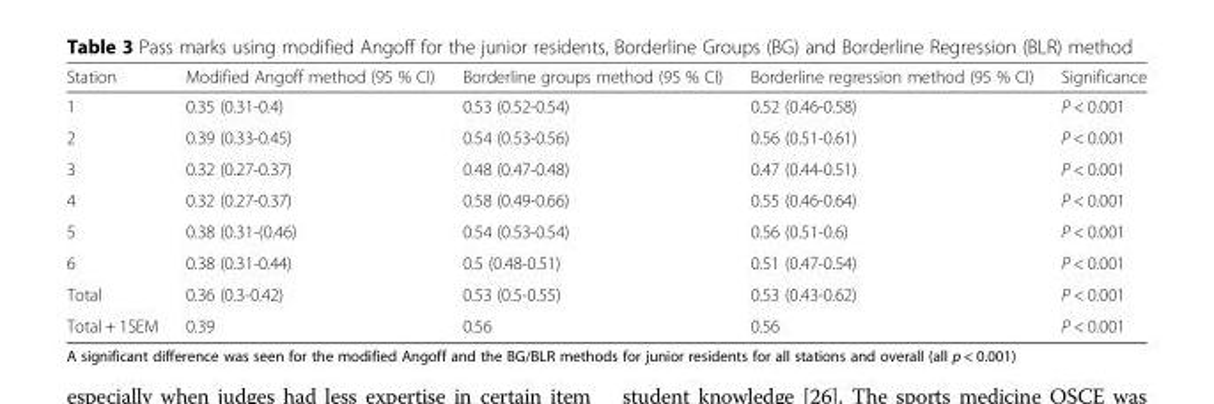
<table><thead><tr><td>Station</td><td>Modified Angoff method (95 % CI)</td><td>Borderline groups method (95 % CI)</td><td>Borderline regression method (95 % CI)</td><td>Significance</td></tr></thead><tbody><tr><td>1</td><td>0.35 (0.31-0.4)</td><td>0.53 (0.52-0.54)</td><td>0.52 (0.46-0.58)</td><td>P &lt; 0.001</td></tr><tr><td>2</td><td>0.39 (0.33-0.45)</td><td>0.54 (0.53-0.56)</td><td>0.56 (0.51-0.61)</td><td>P &lt; 0.001</td></tr><tr><td>3</td><td>0.32 (0.27-0.37)</td><td>0.48 (0.47-0.48)</td><td>0.47 (0.44-0.51)</td><td>P &lt; 0.001</td></tr><tr><td>4</td><td>0.32 (0.27-0.37)</td><td>0.58 (0.49-0.66)</td><td>0.55 (0.46-0.64)</td><td>P &lt; 0.001</td></tr><tr><td>5</td><td>0.38 (0.31-(0.46)</td><td>0.54 (0.53-0.54)</td><td>0.56 (0.51-0.6)</td><td>P &lt; 0.001</td></tr><tr><td>6</td><td>0.38 (0.31-0.44)</td><td>0.5 (0.48-0.51)</td><td>0.51 (0.47-0.54)</td><td>P &lt; 0.001</td></tr><tr><td>Total</td><td>0.36 (0.3-0.42)</td><td>0.53 (0.5-0.55)</td><td>0.53 (0.43-0.62)</td><td>P &lt; 0.001</td></tr><tr><td>Total + 1SEM</td><td>0.39</td><td>0.56</td><td>0.56</td><td>P &lt; 0.001</td></tr></tbody></table>